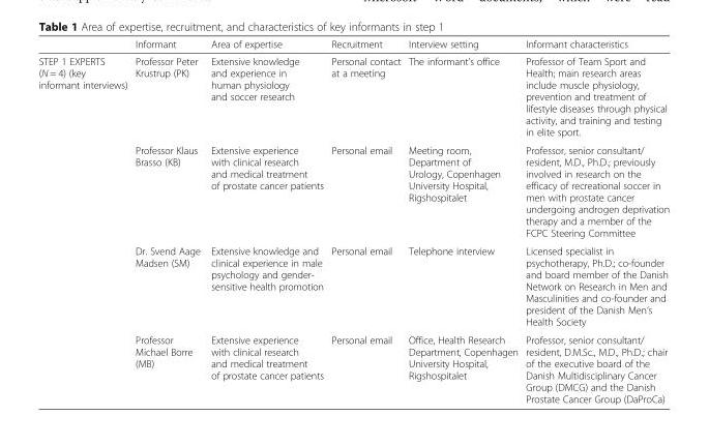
<table><thead><tr><td></td><td>Informant</td><td>Area of expertise</td><td>Recruitment</td><td>Interview setting</td><td>Informant characteristics</td></tr></thead><tbody><tr><td rowspan="4">STEP 1 EXPERTS (N = 4) (key informant interviews)</td><td>Professor Peter Krustrup (PK)</td><td>Extensive knowledge and experience in human physiology and soccer research</td><td>Personal contact at a meeting</td><td>The informant’s office</td><td>Professor of Team Sport and Health; main research areas include muscle physiology, prevention and treatment of lifestyle diseases through physical activity, and training and testing in elite sport.</td></tr><tr><td>Professor Klaus Brasso (KB)</td><td>Extensive experience with clinical research and medical treatment of prostate cancer patients</td><td>Personal email</td><td>Meeting room, Department of Urology, Copenhagen University Hospital, Rigshospitalet</td><td>Professor, senior consultant/ resident, M.D., Ph.D.; previously involved in research on the efficacy of recreational soccer in men with prostate cancer undergoing androgen deprivation therapy and a member of the FCPC Steering Committee</td></tr><tr><td>Dr. Svend Aage Madsen (SM)</td><td>Extensive knowledge and clinical experience in male psychology and gender- sensitive health promotion</td><td>Personal email</td><td>Telephone interview</td><td>Licensed specialist in psychotherapy, Ph.D.; co-founder and board member of the Danish Network on Research in Men and Masculinities and co-founder and president of the Danish Men’s Health Society</td></tr><tr><td>Professor Michael Borre (MB)</td><td>Extensive experience with clinical research and medical treatment of prostate cancer patients</td><td>Personal email</td><td>Office, Health Research Department, Copenhagen University Hospital, Rigshospitalet</td><td>Professor, senior consultant/ resident, D.M.Sc., M.D., Ph.D.; chair of the executive board of the Danish Multidisciplinary Cancer Group (DMCG) and the Danish Prostate Cancer Group (DaProCa)</td></tr></tbody></table>